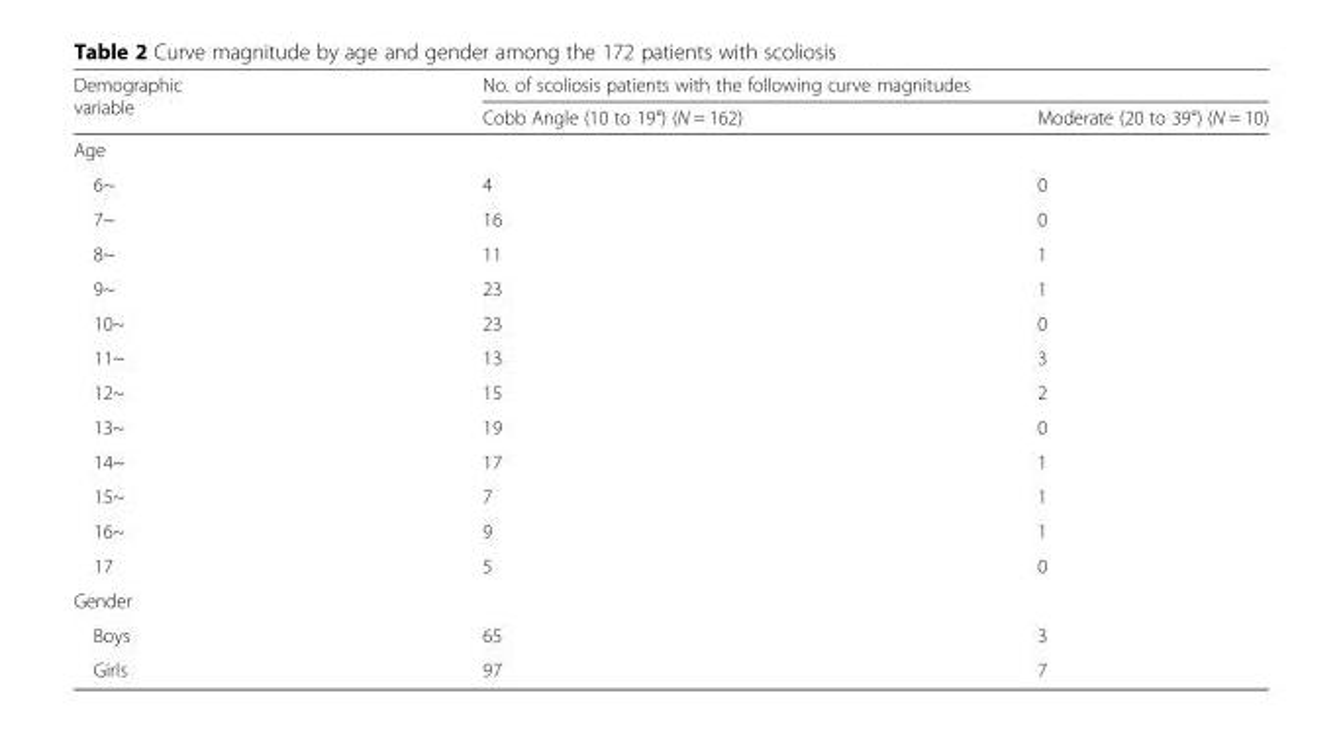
<table><thead><tr><td rowspan="2">Demographic variable</td><td colspan="2">No. of scoliosis patients with the following curve magnitudes</td></tr><tr><td>Cobb Angle (10 to 19°) (N = 162)</td><td>Moderate (20 to 39°) (N = 10)</td></tr></thead><tbody><tr><td colspan="3">Age</td></tr><tr><td>6~</td><td>4</td><td>0</td></tr><tr><td>7~</td><td>16</td><td>0</td></tr><tr><td>8~</td><td>11</td><td>1</td></tr><tr><td>9~</td><td>23</td><td>1</td></tr><tr><td>10~</td><td>23</td><td>0</td></tr><tr><td>11~</td><td>13</td><td>3</td></tr><tr><td>12~</td><td>15</td><td>2</td></tr><tr><td>13~</td><td>19</td><td>0</td></tr><tr><td>14~</td><td>17</td><td>1</td></tr><tr><td>15~</td><td>7</td><td>1</td></tr><tr><td>16~</td><td>9</td><td>1</td></tr><tr><td>17</td><td>5</td><td>0</td></tr><tr><td colspan="3">Gender</td></tr><tr><td>Boys</td><td>65</td><td>3</td></tr><tr><td>Girls</td><td>97</td><td>7</td></tr></tbody></table>